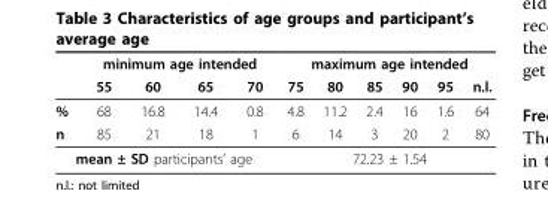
<table><thead><tr><td rowspan="2"></td><td colspan="4">minimum age intended</td><td colspan="6">maximum age intended</td></tr><tr><td>55</td><td>60</td><td>65</td><td>70</td><td>75</td><td>80</td><td>85</td><td>90</td><td>95</td><td>n.l.</td></tr></thead><tbody><tr><td>%</td><td>68</td><td>16.8</td><td>14.4</td><td>0.8</td><td>4.8</td><td>11.2</td><td>2.4</td><td>16</td><td>1.6</td><td>64</td></tr><tr><td>n</td><td>85</td><td>21</td><td>18</td><td>1</td><td>6</td><td>14</td><td>3</td><td>20</td><td>2</td><td>80</td></tr><tr><td colspan="5">mean ± SD participants’ age</td><td colspan="6">72.23 ± 1.54</td></tr></tbody></table>